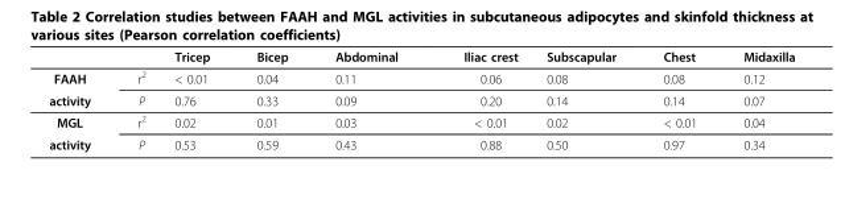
<table><thead><tr><td></td><td></td><td>Tricep</td><td>Bicep</td><td>Abdominal</td><td>Iliac crest</td><td>Subscapular</td><td>Chest</td><td>Midaxilla</td></tr></thead><tbody><tr><td>FAAH</td><td>r<sup>2</sup></td><td>&lt; 0.01</td><td>0.04</td><td>0.11</td><td>0.06</td><td>0.08</td><td>0.08</td><td>0.12</td></tr><tr><td>activity</td><td>P</td><td>0.76</td><td>0.33</td><td>0.09</td><td>0.20</td><td>0.14</td><td>0.14</td><td>0.07</td></tr><tr><td>MGL</td><td>r<sup>2</sup></td><td>0.02</td><td>0.01</td><td>0.03</td><td>&lt; 0.01</td><td>0.02</td><td>&lt; 0.01</td><td>0.04</td></tr><tr><td>activity</td><td>P</td><td>0.53</td><td>0.59</td><td>0.43</td><td>0.88</td><td>0.50</td><td>0.97</td><td>0.34</td></tr></tbody></table>